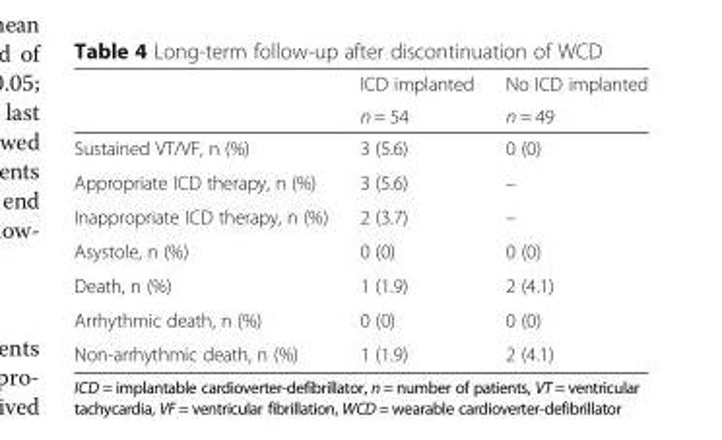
<table><thead><tr><td rowspan="2"></td><td rowspan="2">ICD implanted n = 54</td><td rowspan="2">No ICD implanted n = 49</td></tr><tr></tr></thead><tbody><tr><td>Sustained VT/VF, n (%)</td><td>3 (5.6)</td><td>0 (0)</td></tr><tr><td>Appropriate ICD therapy, n (%)</td><td>3 (5.6)</td><td>–</td></tr><tr><td>Inappropriate ICD therapy, n (%)</td><td>2 (3.7)</td><td>–</td></tr><tr><td>Asystole, n (%)</td><td>0 (0)</td><td>0 (0)</td></tr><tr><td>Death, n (%)</td><td>1 (1.9)</td><td>2 (4.1)</td></tr><tr><td>Arrhythmic death, n (%)</td><td>0 (0)</td><td>0 (0)</td></tr><tr><td>Non-arrhythmic death, n (%)</td><td>1 (1.9)</td><td>2 (4.1)</td></tr></tbody></table>